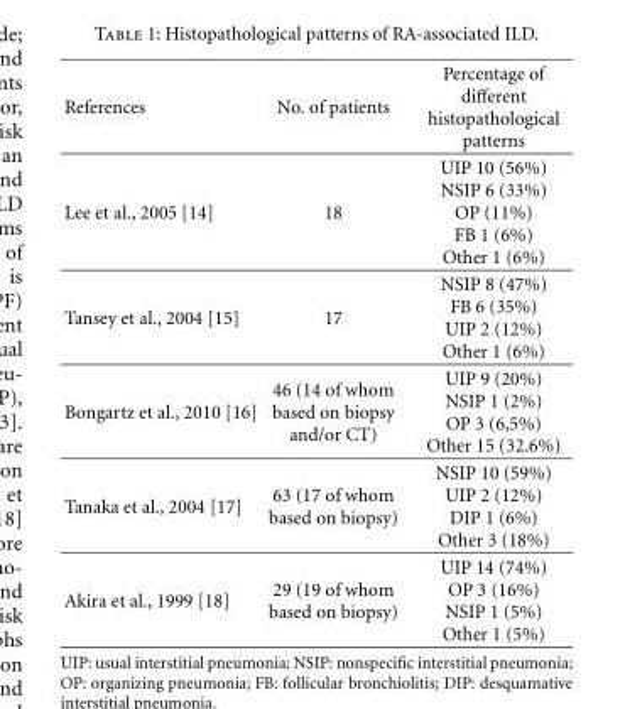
<table><thead><tr><td>References</td><td>No. of patients</td><td>Percentage of different histopathological patterns</td></tr></thead><tbody><tr><td>Lee et al., 2005 [14]</td><td>18</td><td>UIP 10 (56%) NSIP 6 (33%) OP (11%) FB 1 (6%) Other 1 (6%)</td></tr><tr><td>Tansey et al., 2004 [15]</td><td>17</td><td>NSIP 8 (47%) FB 6 (35%) UIP 2 (12%) Other 1 (6%)</td></tr><tr><td>Bongartz et al., 2010 [16]</td><td>46 (14 of whom based on biopsy and/or CT)</td><td>UIP 9 (20%) NSIP 1 (2%) OP 3 (6,5%) Other 15 (32.6%)</td></tr><tr><td>Tanaka et al., 2004 [17]</td><td>63 (17 of whom based on biopsy)</td><td>NSIP 10 (59%) UIP 2 (12%) DIP 1 (6%) Other 3 (18%)</td></tr><tr><td>Akira et al., 1999 [18]</td><td>29 (19 of whom based on biopsy)</td><td>UIP 14 (74%) OP 3 (16%) NSIP 1 (5%) Other 1 (5%)</td></tr></tbody></table>